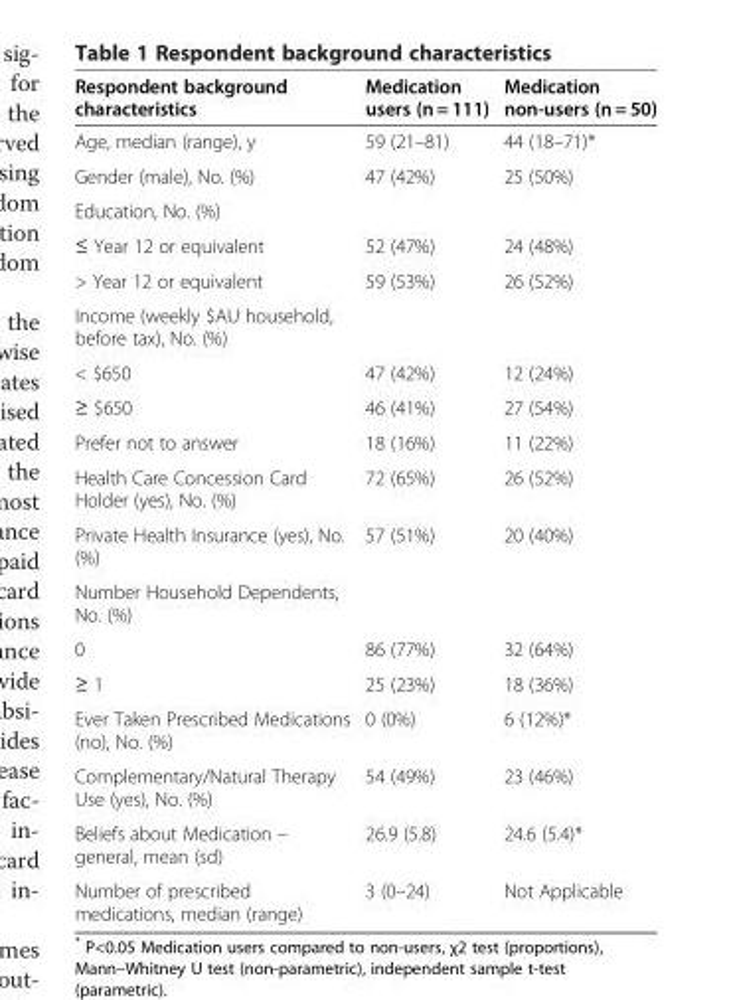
<table><thead><tr><td>Respondent background characteristics</td><td>Medication users (n = 111)</td><td>Medication non-users (n = 50)</td></tr></thead><tbody><tr><td>Age, median (range), y</td><td>59 (21–81)</td><td>44 (18–71)*</td></tr><tr><td>Gender (male), No. (%)</td><td>47 (42%)</td><td>25 (50%)</td></tr><tr><td colspan="3">Education, No. (%)</td></tr><tr><td>≤ Year 12 or equivalent</td><td>52 (47%)</td><td>24 (48%)</td></tr><tr><td>&gt; Year 12 or equivalent</td><td>59 (53%)</td><td>26 (52%)</td></tr><tr><td colspan="3">Income (weekly $AU household, before tax), No. (%)</td></tr><tr><td>&lt; $650</td><td>47 (42%)</td><td>12 (24%)</td></tr><tr><td>≥ $650</td><td>46 (41%)</td><td>27 (54%)</td></tr><tr><td>Prefer not to answer</td><td>18 (16%)</td><td>11 (22%)</td></tr><tr><td>Health Care Concession Card Holder (yes), No. (%)</td><td>72 (65%)</td><td>26 (52%)</td></tr><tr><td>Private Health Insurance (yes), No. (%)</td><td>57 (51%)</td><td>20 (40%)</td></tr><tr><td colspan="3">Number Household Dependents, No. (%)</td></tr><tr><td>0</td><td>86 (77%)</td><td>32 (64%)</td></tr><tr><td>≥ 1</td><td>25 (23%)</td><td>18 (36%)</td></tr><tr><td>Ever Taken Prescribed Medications (no), No. (%)</td><td>0 (0%)</td><td>6 (12%)*</td></tr><tr><td>Complementary/Natural Therapy Use (yes), No. (%)</td><td>54 (49%)</td><td>23 (46%)</td></tr><tr><td>Beliefs about Medication – general, mean (sd)</td><td>26.9 (5.8)</td><td>24.6 (5.4)*</td></tr><tr><td>Number of prescribed medications, median (range)</td><td>3 (0–24)</td><td>Not Applicable</td></tr></tbody></table>